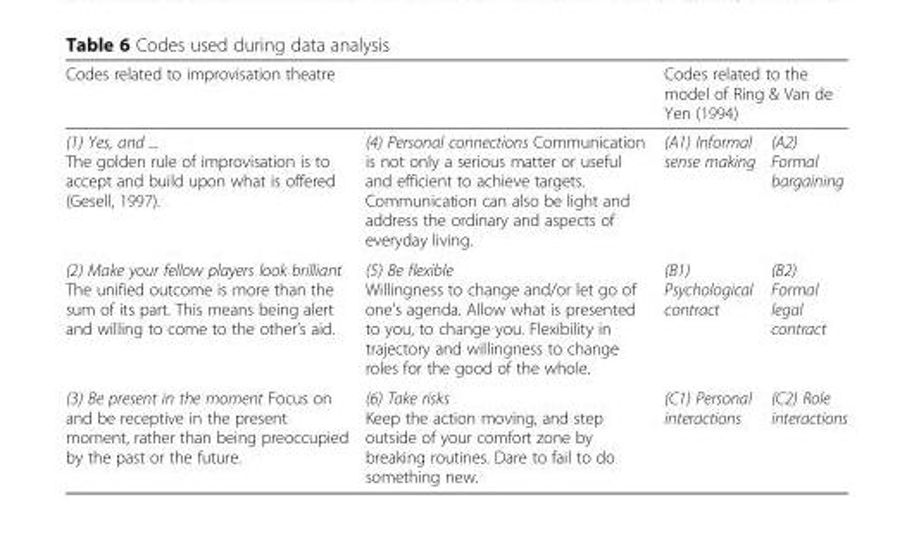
<table><thead><tr><td colspan="2">Codes related to improvisation theatre</td><td colspan="2">Codes related to the model of Ring &amp; Van de Yen (1994)</td></tr><tr><td>(1) Yes, and ... The golden rule of improvisation is to accept and build upon what is offered (Gesell, 1997).</td><td>(4) Personal connections Communication is not only a serious matter or useful and efficient to achieve targets. Communication can also be light and address the ordinary and aspects of everyday living.</td><td>(A1) Informal sense making</td><td>(A2) Formal bargaining</td></tr></thead><tbody><tr><td>(2) Make your fellow players look brilliant The unified outcome is more than the sum of its part. This means being alert and willing to come to the other’s aid.</td><td>(5) Be flexible Willingness to change and/or let go of one’s agenda. Allow what is presented to you, to change you. Flexibility in trajectory and willingness to change roles for the good of the whole.</td><td>(B1) Psychological contract</td><td>(B2) Formal legal contract</td></tr><tr><td>(3) Be present in the moment Focus on and be receptive in the present moment, rather than being preoccupied by the past or the future.</td><td>(6) Take risks Keep the action moving, and step outside of your comfort zone by breaking routines. Dare to fail to do something new.</td><td>(C1) Personal interactions</td><td>(C2) Role interactions</td></tr></tbody></table>